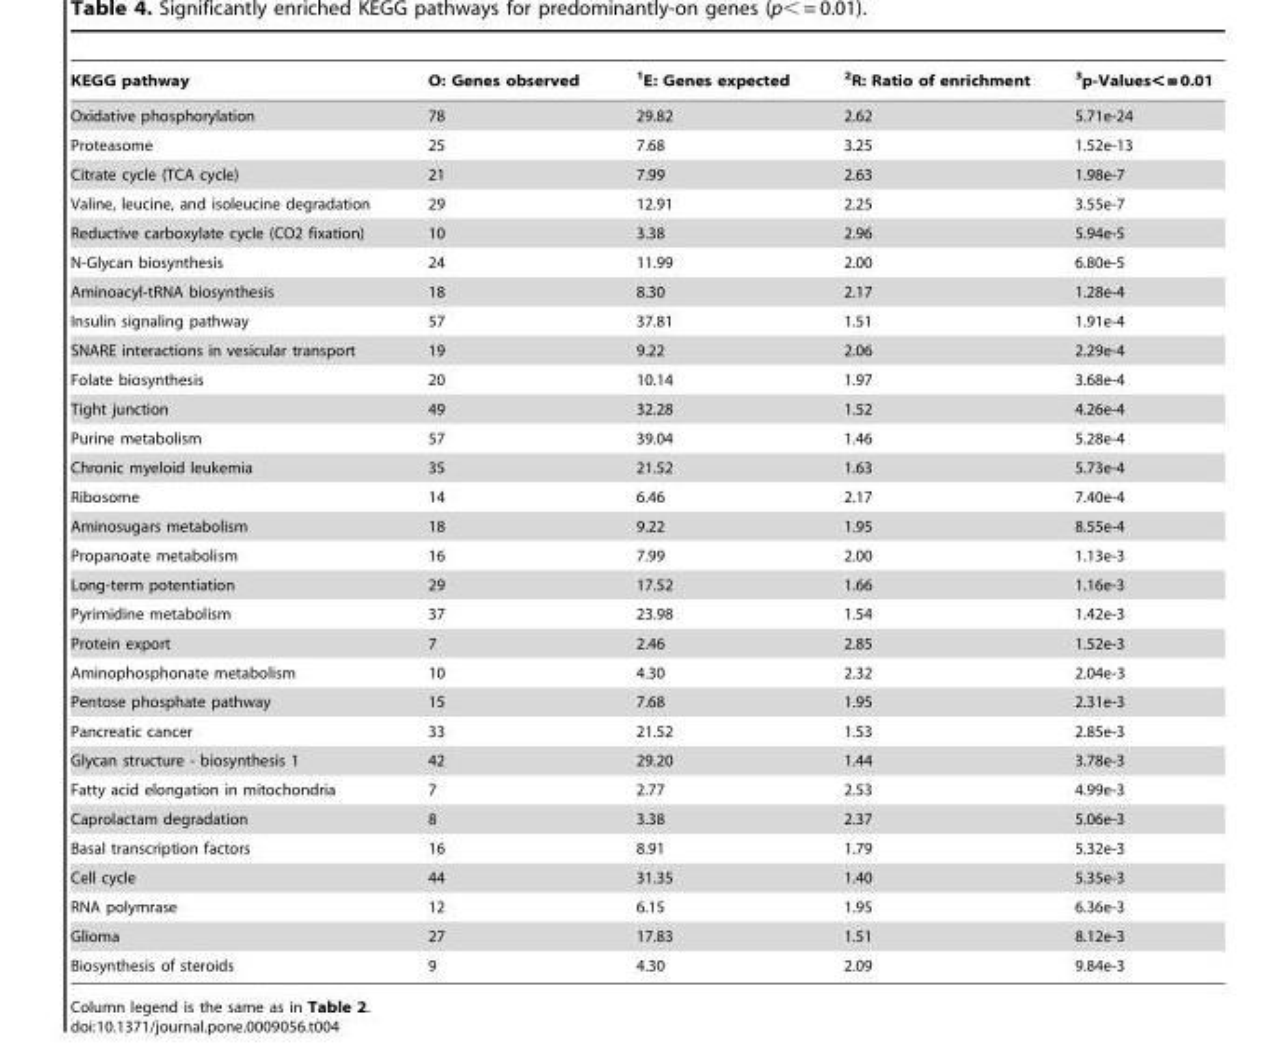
<table><thead><tr><td>KEGG pathway</td><td>O: Genes observed</td><td><sup>1</sup>E: Genes expected</td><td><sup>2</sup>R: Ratio of enrichment</td><td><sup>3</sup>p-Values&lt; = 0.01</td></tr></thead><tbody><tr><td>Oxidative phosphorylation</td><td>78</td><td>29.82</td><td>2.62</td><td>5.71e-24</td></tr><tr><td>Proteasome</td><td>25</td><td>7.68</td><td>3.25</td><td>1.52e-13</td></tr><tr><td>Citrate cycle (TCA cycle)</td><td>21</td><td>7.99</td><td>2.63</td><td>1.98e-7</td></tr><tr><td>Valine, leucine, and isoleucine degradation</td><td>29</td><td>12.91</td><td>2.25</td><td>3.55e-7</td></tr><tr><td>Reductive carboxylate cycle (CO2 fixation)</td><td>10</td><td>3.38</td><td>2.96</td><td>5.94e-5</td></tr><tr><td>N-Glycan biosynthesis</td><td>24</td><td>11.99</td><td>2.00</td><td>6.80e-5</td></tr><tr><td>Aminoacyl-tRNA biosynthesis</td><td>18</td><td>8.30</td><td>2.17</td><td>1.28e-4</td></tr><tr><td>Insulin signaling pathway</td><td>57</td><td>37.81</td><td>1.51</td><td>1.91e-4</td></tr><tr><td>SNARE interactions in vesicular transport</td><td>19</td><td>9.22</td><td>2.06</td><td>2.29e-4</td></tr><tr><td>Folate biosynthesis</td><td>20</td><td>10.14</td><td>1.97</td><td>3.68e-4</td></tr><tr><td>Tight junction</td><td>49</td><td>32.28</td><td>1.52</td><td>4.26e-4</td></tr><tr><td>Purine metabolism</td><td>57</td><td>39.04</td><td>1.46</td><td>5.28e-4</td></tr><tr><td>Chronic myeloid leukemia</td><td>35</td><td>21.52</td><td>1.63</td><td>5.73e-4</td></tr><tr><td>Ribosome</td><td>14</td><td>6.46</td><td>2.17</td><td>7.40e-4</td></tr><tr><td>Aminosugars metabolism</td><td>18</td><td>9.22</td><td>1.95</td><td>8.55e-4</td></tr><tr><td>Propanoate metabolism</td><td>16</td><td>7.99</td><td>2.00</td><td>1.13e-3</td></tr><tr><td>Long-term potentiation</td><td>29</td><td>17.52</td><td>1.66</td><td>1.16e-3</td></tr><tr><td>Pyrimidine metabolism</td><td>37</td><td>23.98</td><td>1.54</td><td>1.42e-3</td></tr><tr><td>Protein export</td><td>7</td><td>2.46</td><td>2.85</td><td>1.52e-3</td></tr><tr><td>Aminophosphonate metabolism</td><td>10</td><td>4.30</td><td>2.32</td><td>2.04e-3</td></tr><tr><td>Pentose phosphate pathway</td><td>15</td><td>7.68</td><td>1.95</td><td>2.31e-3</td></tr><tr><td>Pancreatic cancer</td><td>33</td><td>21.52</td><td>1.53</td><td>2.85e-3</td></tr><tr><td>Glycan structure - biosynthesis 1</td><td>42</td><td>29.20</td><td>1.44</td><td>3.78e-3</td></tr><tr><td>Fatty acid elongation in mitochondria</td><td>7</td><td>2.77</td><td>2.53</td><td>4.99e-3</td></tr><tr><td>Caprolactam degradation</td><td>8</td><td>3.38</td><td>2.37</td><td>5.06e-3</td></tr><tr><td>Basal transcription factors</td><td>16</td><td>8.91</td><td>1.79</td><td>5.32e-3</td></tr><tr><td>Cell cycle</td><td>44</td><td>31.35</td><td>1.40</td><td>5.35e-3</td></tr><tr><td>RNA polymrase</td><td>12</td><td>6.15</td><td>1.95</td><td>6.36e-3</td></tr><tr><td>Glioma</td><td>27</td><td>17.83</td><td>1.51</td><td>8.12e-3</td></tr><tr><td>Biosynthesis of steroids</td><td>9</td><td>4.30</td><td>2.09</td><td>9.84e-3</td></tr></tbody></table>